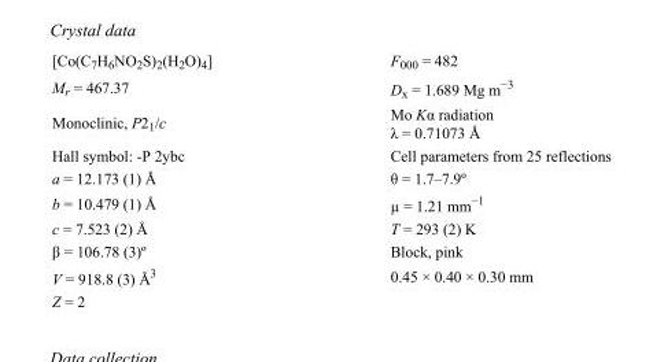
<table><tbody><tr><td>[Co(C<sub>7</sub>H<sub>6</sub>NO<sub>2</sub>S)<sub>2</sub>(H<sub>2</sub>O)<sub>4</sub>]</td><td>F<sub>000</sub> = 482</td></tr><tr><td>M<sub>r</sub> = 467.37</td><td>D<sub>x</sub> = 1.689 Mg m<sup>−3</sup></td></tr><tr><td>Monoclinic, P2<sub>1</sub>/c</td><td>Mo Kα radiation λ = 0.71073 Å</td></tr><tr><td>Hall symbol: -P 2ybc</td><td>Cell parameters from 25 reflections</td></tr><tr><td>a = 12.173 (1) Å</td><td>θ = 1.7–7.9º</td></tr><tr><td>b = 10.479 (1) Å</td><td>µ = 1.21 mm<sup>−1</sup></td></tr><tr><td>c = 7.523 (2) Å</td><td>T = 293 (2) K</td></tr><tr><td>β = 106.78 (3)º</td><td>Block, pink</td></tr><tr><td>V = 918.8 (3) Å<sup>3</sup></td><td>0.45 × 0.40 × 0.30 mm</td></tr><tr><td>Z = 2</td><td></td></tr></tbody></table>